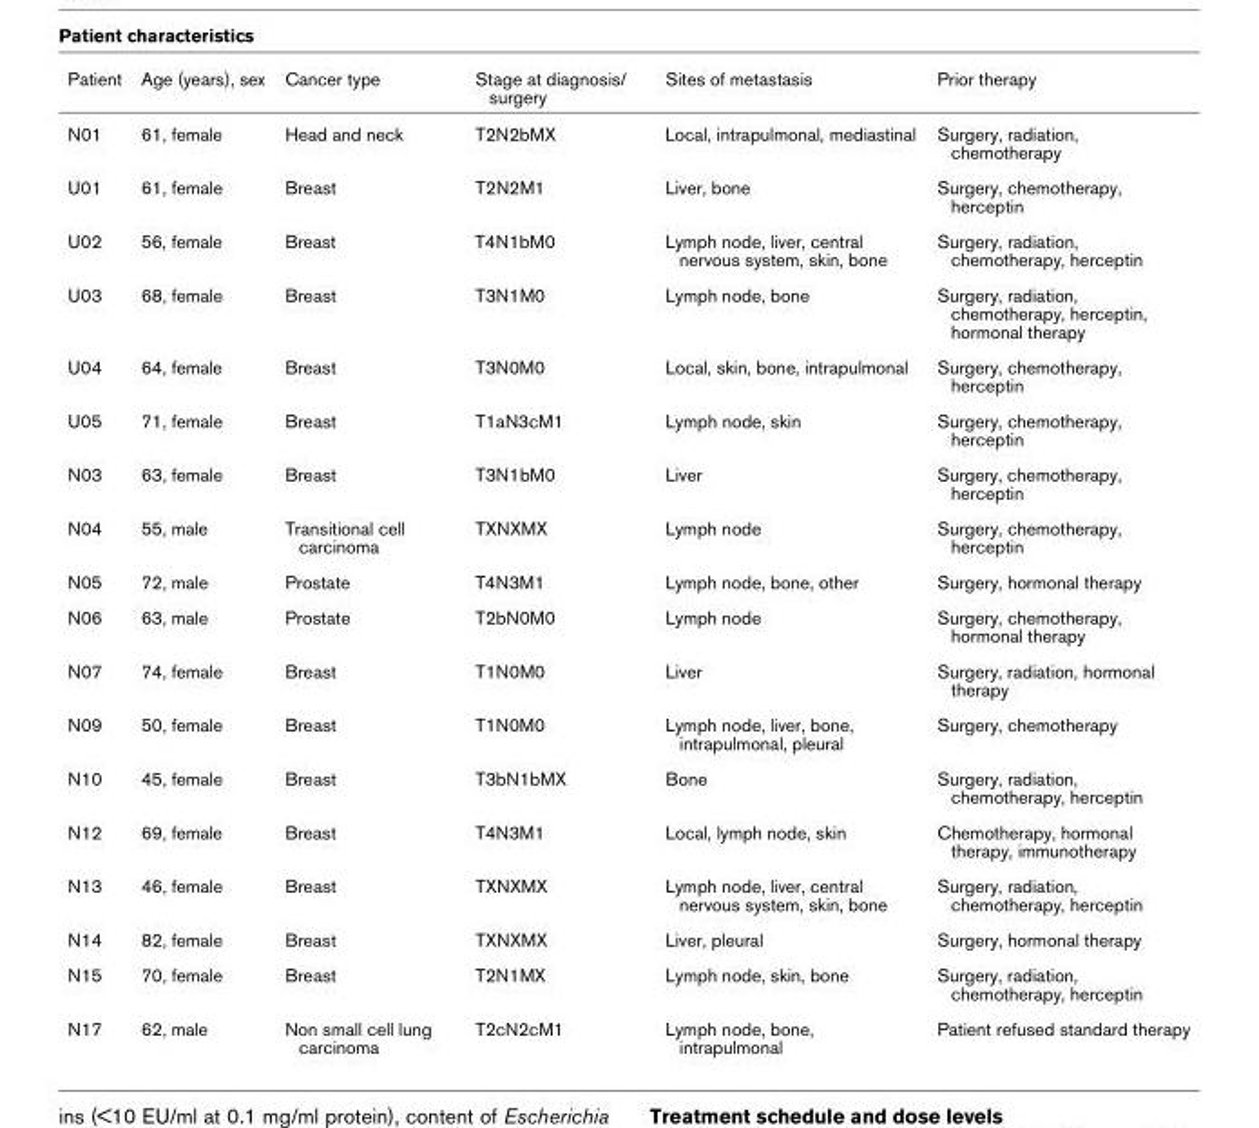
<table><thead><tr><td>Patient</td><td>Age (years), sex</td><td>Cancer type</td><td>Stage at diagnosis/ surgery</td><td>Sites of metastasis</td><td>Prior therapy</td></tr></thead><tbody><tr><td>N01</td><td>61, female</td><td>Head and neck</td><td>T2N2bMX</td><td>Local, intrapulmonal, mediastinal</td><td>Surgery, radiation, chemotherapy</td></tr><tr><td>U01</td><td>61, female</td><td>Breast</td><td>T2N2M1</td><td>Liver, bone</td><td>Surgery, chemotherapy, herceptin</td></tr><tr><td>U02</td><td>56, female</td><td>Breast</td><td>T4N1bM0</td><td>Lymph node, liver, central nervous system, skin, bone</td><td>Surgery, radiation, chemotherapy, herceptin</td></tr><tr><td>U03</td><td>68, female</td><td>Breast</td><td>T3N1M0</td><td>Lymph node, bone</td><td>Surgery, radiation, chemotherapy, herceptin, hormonal therapy</td></tr><tr><td>U04</td><td>64, female</td><td>Breast</td><td>T3N0M0</td><td>Local, skin, bone, intrapulmonal</td><td>Surgery, chemotherapy, herceptin</td></tr><tr><td>U05</td><td>71, female</td><td>Breast</td><td>T1aN3cM1</td><td>Lymph node, skin</td><td>Surgery, chemotherapy, herceptin</td></tr><tr><td>N03</td><td>63, female</td><td>Breast</td><td>T3N1bM0</td><td>Liver</td><td>Surgery, chemotherapy, herceptin</td></tr><tr><td>N04</td><td>55, male</td><td>Transitional cell carcinoma</td><td>TXNXMX</td><td>Lymph node</td><td>Surgery, chemotherapy, herceptin</td></tr><tr><td>N05</td><td>72, male</td><td>Prostate</td><td>T4N3M1</td><td>Lymph node, bone, other</td><td>Surgery, hormonal therapy</td></tr><tr><td>N06</td><td>63, male</td><td>Prostate</td><td>T2bN0M0</td><td>Lymph node</td><td>Surgery, chemotherapy, hormonal therapy</td></tr><tr><td>N07</td><td>74, female</td><td>Breast</td><td>T1N0M0</td><td>Liver</td><td>Surgery, radiation, hormonal therapy</td></tr><tr><td>N09</td><td>50, female</td><td>Breast</td><td>T1N0M0</td><td>Lymph node, liver, bone, intrapulmonal, pleural</td><td>Surgery, chemotherapy</td></tr><tr><td>N10</td><td>45, female</td><td>Breast</td><td>T3bN1bMX</td><td>Bone</td><td>Surgery, radiation, chemotherapy, herceptin</td></tr><tr><td>N12</td><td>69, female</td><td>Breast</td><td>T4N3M1</td><td>Local, lymph node, skin</td><td>Chemotherapy, hormonal therapy, immunotherapy</td></tr><tr><td>N13</td><td>46, female</td><td>Breast</td><td>TXNXMX</td><td>Lymph node, liver, central nervous system, skin, bone</td><td>Surgery, radiation, chemotherapy, herceptin</td></tr><tr><td>N14</td><td>82, female</td><td>Breast</td><td>TXNXMX</td><td>Liver, pleural</td><td>Surgery, hormonal therapy</td></tr><tr><td>N15</td><td>70, female</td><td>Breast</td><td>T2N1MX</td><td>Lymph node, skin, bone</td><td>Surgery, radiation, chemotherapy, herceptin</td></tr><tr><td>N17</td><td>62, male</td><td>Non small cell lung carcinoma</td><td>T2cN2cM1</td><td>Lymph node, bone, intrapulmonal</td><td>Patient refused standard therapy</td></tr></tbody></table>